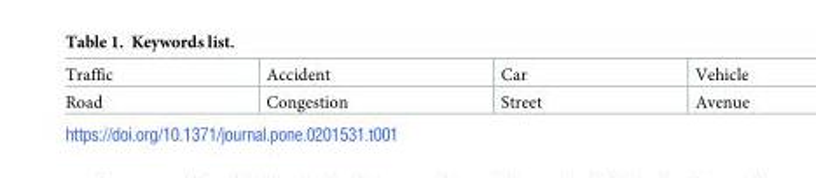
<table><tbody><tr><td>Traffic</td><td>Accident</td><td>Car</td><td>Vehicle</td></tr><tr><td>Road</td><td>Congestion</td><td>Street</td><td>Avenue</td></tr></tbody></table>